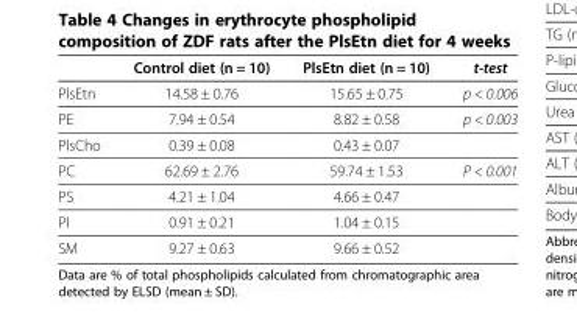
<table><thead><tr><td></td><td>Control diet (n = 10)</td><td>PlsEtn diet (n = 10)</td><td>t-test</td></tr></thead><tbody><tr><td>PlsEtn</td><td>14.58 ± 0.76</td><td>15.65 ± 0.75</td><td>p &lt; 0.006</td></tr><tr><td>PE</td><td>7.94 ± 0.54</td><td>8.82 ± 0.58</td><td>p &lt; 0.003</td></tr><tr><td>PlsCho</td><td>0.39 ± 0.08</td><td>0.43 ± 0.07</td><td></td></tr><tr><td>PC</td><td>62.69 ± 2.76</td><td>59.74 ± 1.53</td><td>P &lt; 0.001</td></tr><tr><td>PS</td><td>4.21 ± 1.04</td><td>4.66 ± 0.47</td><td></td></tr><tr><td>PI</td><td>0.91 ± 0.21</td><td>1.04 ± 0.15</td><td></td></tr><tr><td>SM</td><td>9.27 ± 0.63</td><td>9.66 ± 0.52</td><td></td></tr></tbody></table>